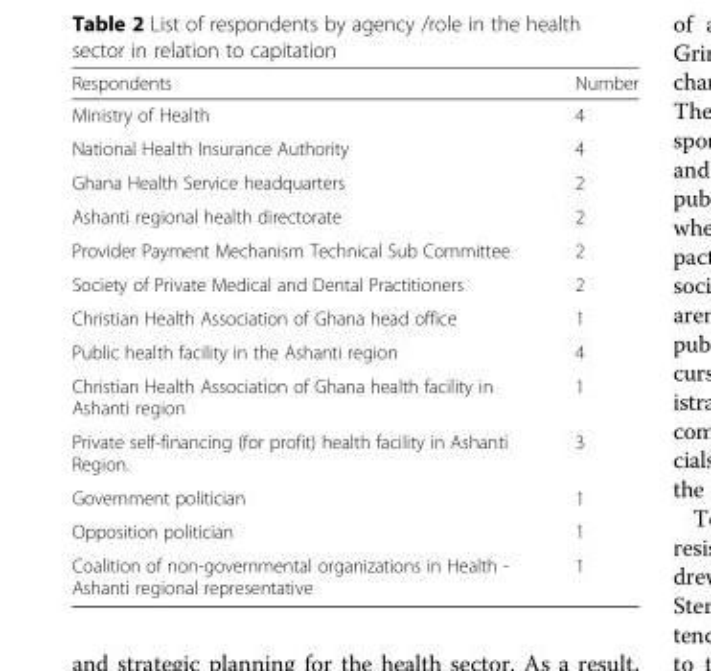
<table><thead><tr><td>Respondents</td><td>Number</td></tr></thead><tbody><tr><td>Ministry of Health</td><td>4</td></tr><tr><td>National Health Insurance Authority</td><td>4</td></tr><tr><td>Ghana Health Service headquarters</td><td>2</td></tr><tr><td>Ashanti regional health directorate</td><td>2</td></tr><tr><td>Provider Payment Mechanism Technical Sub Committee</td><td>2</td></tr><tr><td>Society of Private Medical and Dental Practitioners</td><td>2</td></tr><tr><td>Christian Health Association of Ghana head office</td><td>1</td></tr><tr><td>Public health facility in the Ashanti region</td><td>4</td></tr><tr><td>Christian Health Association of Ghana health facility in Ashanti region</td><td>1</td></tr><tr><td>Private self-financing (for profit) health facility in Ashanti Region.</td><td>3</td></tr><tr><td>Government politician</td><td>1</td></tr><tr><td>Opposition politician</td><td>1</td></tr><tr><td>Coalition of non-governmental organizations in Health - Ashanti regional representative</td><td>1</td></tr></tbody></table>